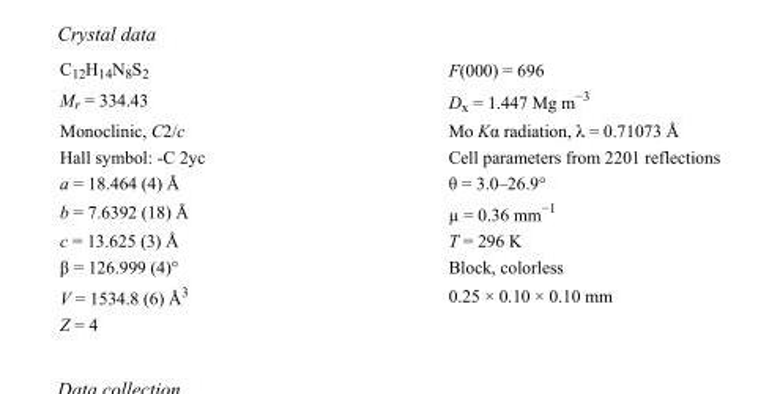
<table><tbody><tr><td>C<sub>12</sub>H<sub>14</sub>N<sub>8</sub>S<sub>2</sub></td><td>F(000) = 696</td></tr><tr><td>M<sub>r</sub> = 334.43</td><td>D<sub>x</sub> = 1.447 Mg m<sup>−3</sup></td></tr><tr><td>Monoclinic, C2/c</td><td>Mo Kα radiation, λ = 0.71073 Å</td></tr><tr><td>Hall symbol: -C 2yc</td><td>Cell parameters from 2201 reflections</td></tr><tr><td>a = 18.464 (4) Å</td><td>θ = 3.0–26.9°</td></tr><tr><td>b = 7.6392 (18) Å</td><td>µ = 0.36 mm<sup>−1</sup></td></tr><tr><td>c = 13.625 (3) Å</td><td>T = 296 K</td></tr><tr><td>β = 126.999 (4)°</td><td>Block, colorless</td></tr><tr><td>V = 1534.8 (6) Å<sup>3</sup></td><td>0.25 × 0.10 × 0.10 mm</td></tr><tr><td>Z = 4</td><td></td></tr></tbody></table>